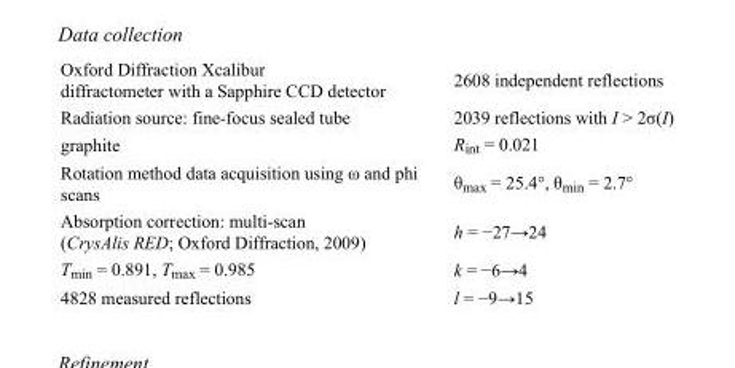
<table><tbody><tr><td>Oxford Diffraction Xcalibur diffractometer with a Sapphire CCD detector</td><td>2608 independent reflections</td></tr><tr><td>Radiation source: fine-focus sealed tube</td><td>2039 reflections with I &gt; 2σ(I)</td></tr><tr><td>graphite</td><td>R<sub>int</sub> = 0.021</td></tr><tr><td>Rotation method data acquisition using ω and phi scans</td><td>θ<sub>max</sub> = 25.4°, θ<sub>min</sub> = 2.7°</td></tr><tr><td>Absorption correction: multi-scan (CrysAlis RED; Oxford Diffraction, 2009)</td><td>h = −27→24</td></tr><tr><td>T<sub>min</sub> = 0.891, T<sub>max</sub> = 0.985</td><td>k = −6→4</td></tr><tr><td>4828 measured reflections</td><td>l = −9→15</td></tr></tbody></table>